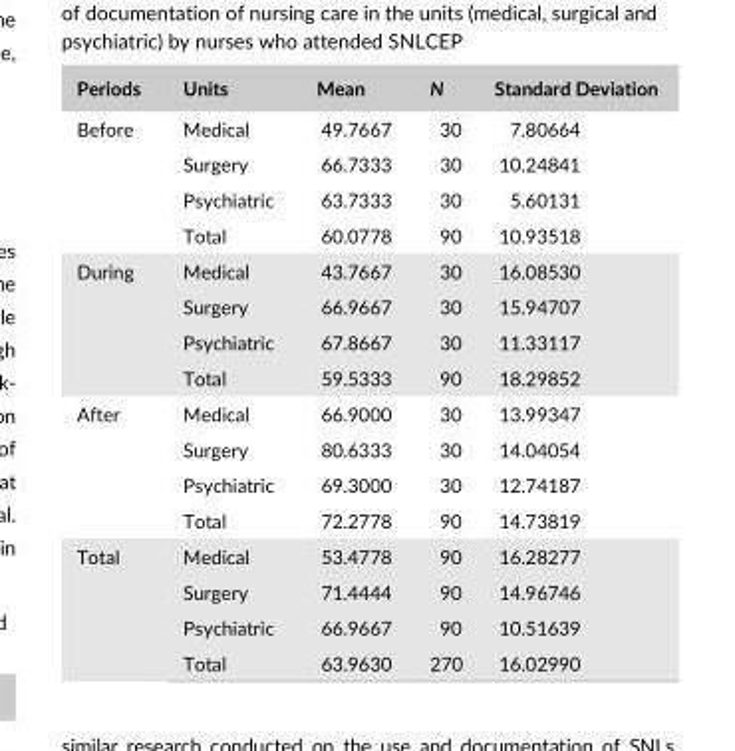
<table><thead><tr><td>Periods</td><td>Units</td><td>Mean</td><td>N</td><td>Standard Deviation</td></tr></thead><tbody><tr><td rowspan="4">Before</td><td>Medical</td><td>49.7667</td><td>30</td><td>7.80664</td></tr><tr><td>Surgery</td><td>66.7333</td><td>30</td><td>10.24841</td></tr><tr><td>Psychiatric</td><td>63.7333</td><td>30</td><td>5.60131</td></tr><tr><td>Total</td><td>60.0778</td><td>90</td><td>10.93518</td></tr><tr><td rowspan="4">During</td><td>Medical</td><td>43.7667</td><td>30</td><td>16.08530</td></tr><tr><td>Surgery</td><td>66.9667</td><td>30</td><td>15.94707</td></tr><tr><td>Psychiatric</td><td>67.8667</td><td>30</td><td>11.33117</td></tr><tr><td>Total</td><td>59.5333</td><td>90</td><td>18.29852</td></tr><tr><td rowspan="4">After</td><td>Medical</td><td>66.9000</td><td>30</td><td>13.99347</td></tr><tr><td>Surgery</td><td>80.6333</td><td>30</td><td>14.04054</td></tr><tr><td>Psychiatric</td><td>69.3000</td><td>30</td><td>12.74187</td></tr><tr><td>Total</td><td>72.2778</td><td>90</td><td>14.73819</td></tr><tr><td rowspan="4">Total</td><td>Medical</td><td>53.4778</td><td>90</td><td>16.28277</td></tr><tr><td>Surgery</td><td>71.4444</td><td>90</td><td>14.96746</td></tr><tr><td>Psychiatric</td><td>66.9667</td><td>90</td><td>10.51639</td></tr><tr><td>Total</td><td>63.9630</td><td>270</td><td>16.02990</td></tr></tbody></table>